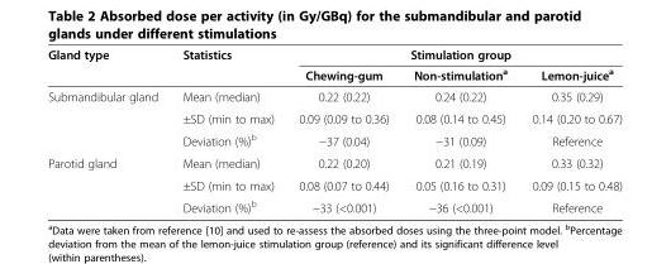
<table><thead><tr><td rowspan="2">Gland type</td><td rowspan="2">Statistics</td><td colspan="3">Stimulation group</td></tr><tr><td>Chewing-gum</td><td>Non-stimulation<sup>a</sup></td><td>Lemon-juice<sup>a</sup></td></tr></thead><tbody><tr><td rowspan="3">Submandibular gland</td><td>Mean (median)</td><td>0.22 (0.22)</td><td>0.24 (0.22)</td><td>0.35 (0.29)</td></tr><tr><td>±SD (min to max)</td><td>0.09 (0.09 to 0.36)</td><td>0.08 (0.14 to 0.45)</td><td>0.14 (0.20 to 0.67)</td></tr><tr><td>Deviation (%)<sup>b</sup></td><td>−37 (0.04)</td><td>−31 (0.09)</td><td>Reference</td></tr><tr><td rowspan="3">Parotid gland</td><td>Mean (median)</td><td>0.22 (0.20)</td><td>0.21 (0.19)</td><td>0.33 (0.32)</td></tr><tr><td>±SD (min to max)</td><td>0.08 (0.07 to 0.44)</td><td>0.05 (0.16 to 0.31)</td><td>0.09 (0.15 to 0.48)</td></tr><tr><td>Deviation (%)<sup>b</sup></td><td>−33 (&lt;0.001)</td><td>−36 (&lt;0.001)</td><td>Reference</td></tr></tbody></table>